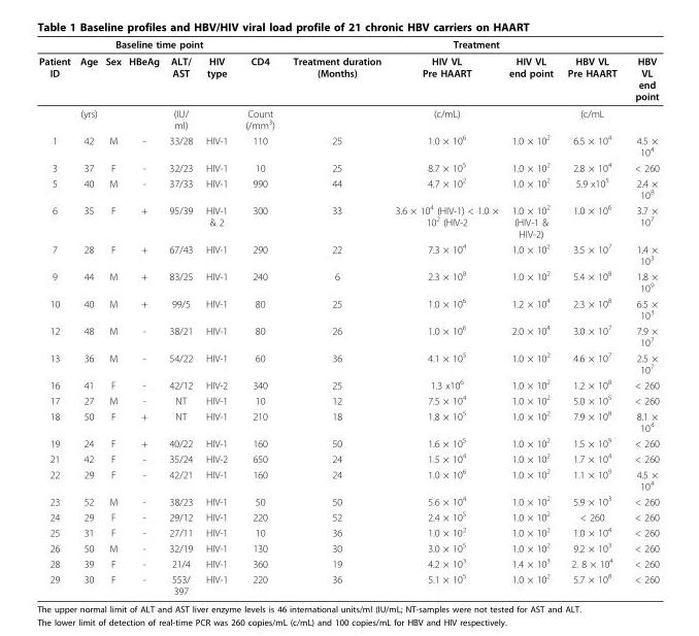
<table><thead><tr><td colspan="7">Baseline time point</td><td colspan="5">Treatment</td></tr><tr><td>Patient ID</td><td>Age</td><td>Sex</td><td>HBeAg</td><td>ALT/ AST</td><td>HIV type</td><td>CD4</td><td>Treatment duration (Months)</td><td>HIV VL Pre HAART</td><td>HIV VL end point</td><td>HBV VL Pre HAART</td><td>HBV VL end point</td></tr></thead><tbody><tr><td></td><td>(yrs)</td><td></td><td></td><td>(IU/ ml)</td><td></td><td>Count (/mm<sup>3</sup>)</td><td></td><td>(c/mL)</td><td></td><td>(c/mL</td><td></td></tr><tr><td>1</td><td>42</td><td>M</td><td>-</td><td>33/28</td><td>HIV-1</td><td>110</td><td>25</td><td>1.0 × 10<sup>6</sup></td><td>1.0 × 10<sup>2</sup></td><td>6.5 × 10<sup>4</sup></td><td>4.5 × 10<sup>4</sup></td></tr><tr><td>3</td><td>37</td><td>F</td><td>-</td><td>32/23</td><td>HIV-1</td><td>10</td><td>25</td><td>8.7 × 10<sup>5</sup></td><td>1.0 × 10<sup>2</sup></td><td>2.8 × 10<sup>4</sup></td><td>&lt; 260</td></tr><tr><td>5</td><td>40</td><td>M</td><td>-</td><td>37/33</td><td>HIV-1</td><td>990</td><td>44</td><td>4.7 × 10<sup>2</sup></td><td>1.0 × 10<sup>2</sup></td><td>5.9 x10<sup>5</sup></td><td>2.4 × 10<sup>8</sup></td></tr><tr><td>6</td><td>35</td><td>F</td><td>+</td><td>95/39</td><td>HIV-1 &amp; 2</td><td>300</td><td>33</td><td>3.6 × 10<sup>4</sup> (HIV-1) &lt; 1.0 × 10<sup>2</sup> (HIV-2</td><td>1.0 × 10<sup>2</sup> (HIV-1 &amp; HIV-2)</td><td>1.0 × 10<sup>6</sup></td><td>3.7 × 10<sup>7</sup></td></tr><tr><td>7</td><td>28</td><td>F</td><td>+</td><td>67/43</td><td>HIV-1</td><td>290</td><td>22</td><td>7.3 × 10<sup>4</sup></td><td>1.0 × 10<sup>2</sup></td><td>3.5 × 10<sup>7</sup></td><td>1.4 × 10<sup>3</sup></td></tr><tr><td>9</td><td>44</td><td>M</td><td>+</td><td>83/25</td><td>HIV-1</td><td>240</td><td>6</td><td>2.3 × 10<sup>8</sup></td><td>1.0 × 10<sup>2</sup></td><td>5.4 × 10<sup>8</sup></td><td>1.8 × 10<sup>9</sup></td></tr><tr><td>10</td><td>40</td><td>M</td><td>+</td><td>99/5</td><td>HIV-1</td><td>80</td><td>25</td><td>1.0 × 10<sup>6</sup></td><td>1.2 × 10<sup>4</sup></td><td>2.3 × 10<sup>8</sup></td><td>6.5 × 10<sup>3</sup></td></tr><tr><td>12</td><td>48</td><td>M</td><td>-</td><td>38/21</td><td>HIV-1</td><td>80</td><td>26</td><td>1.0 × 10<sup>6</sup></td><td>2.0 × 10<sup>4</sup></td><td>3.0 × 10<sup>7</sup></td><td>7.9 × 10<sup>7</sup></td></tr><tr><td>13</td><td>36</td><td>M</td><td>-</td><td>54/22</td><td>HIV-1</td><td>60</td><td>36</td><td>4.1 × 10<sup>5</sup></td><td>1.0 × 10<sup>2</sup></td><td>4.6 × 10<sup>7</sup></td><td>2.5 × 10<sup>7</sup></td></tr><tr><td>16</td><td>41</td><td>F</td><td>-</td><td>42/12</td><td>HIV-2</td><td>340</td><td>25</td><td>1.3 x10<sup>6</sup></td><td>1.0 × 10<sup>2</sup></td><td>1.2 × 10<sup>8</sup></td><td>&lt; 260</td></tr><tr><td>17</td><td>27</td><td>M</td><td>-</td><td>NT</td><td>HIV-1</td><td>10</td><td>12</td><td>7.5 × 10<sup>4</sup></td><td>1.0 × 10<sup>2</sup></td><td>5.0 × 10<sup>5</sup></td><td>&lt; 260</td></tr><tr><td>18</td><td>50</td><td>F</td><td>+</td><td>NT</td><td>HIV-1</td><td>210</td><td>18</td><td>1.8 × 10<sup>5</sup></td><td>1.0 × 10<sup>2</sup></td><td>7.9 × 10<sup>8</sup></td><td>8.1 × 10<sup>4</sup></td></tr><tr><td>19</td><td>24</td><td>F</td><td>+</td><td>40/22</td><td>HIV-1</td><td>160</td><td>50</td><td>1.6 × 10<sup>5</sup></td><td>1.0 × 10<sup>2</sup></td><td>1.5 × 10<sup>9</sup></td><td>&lt; 260</td></tr><tr><td>21</td><td>42</td><td>F</td><td>-</td><td>35/24</td><td>HIV-2</td><td>650</td><td>24</td><td>1.5 × 10<sup>4</sup></td><td>1.0 × 10<sup>2</sup></td><td>1.7 × 10<sup>4</sup></td><td>&lt; 260</td></tr><tr><td>22</td><td>29</td><td>F</td><td>-</td><td>42/21</td><td>HIV-1</td><td>160</td><td>24</td><td>1.0 × 10<sup>6</sup></td><td>1.0 × 10<sup>2</sup></td><td>1.1 × 10<sup>9</sup></td><td>4.5 × 10<sup>4</sup></td></tr><tr><td>23</td><td>52</td><td>M</td><td>-</td><td>38/23</td><td>HIV-1</td><td>50</td><td>50</td><td>5.6 × 10<sup>4</sup></td><td>1.0 × 10<sup>2</sup></td><td>5.9 × 10<sup>3</sup></td><td>&lt; 260</td></tr><tr><td>24</td><td>29</td><td>F</td><td>-</td><td>29/12</td><td>HIV-1</td><td>220</td><td>52</td><td>2.4 × 10<sup>5</sup></td><td>1.0 × 10<sup>2</sup></td><td>&lt; 260</td><td>&lt; 260</td></tr><tr><td>25</td><td>31</td><td>F</td><td>-</td><td>27/11</td><td>HIV-1</td><td>10</td><td>36</td><td>1.0 × 10<sup>2</sup></td><td>1.0 × 10<sup>2</sup></td><td>1.0 × 10<sup>4</sup></td><td>&lt; 260</td></tr><tr><td>26</td><td>50</td><td>M</td><td>-</td><td>32/19</td><td>HIV-1</td><td>130</td><td>30</td><td>3.0 × 10<sup>5</sup></td><td>1.0 × 10<sup>2</sup></td><td>9.2 × 10<sup>3</sup></td><td>&lt; 260</td></tr><tr><td>28</td><td>39</td><td>F</td><td>-</td><td>21/4</td><td>HIV-1</td><td>360</td><td>19</td><td>4.2 × 10<sup>3</sup></td><td>1.4 × 10<sup>3</sup></td><td>2. 8 × 10<sup>4</sup></td><td>&lt; 260</td></tr><tr><td>29</td><td>30</td><td>F</td><td>-</td><td>553/ 397</td><td>HIV-1</td><td>220</td><td>36</td><td>5.1 × 10<sup>5</sup></td><td>1.0 × 10<sup>2</sup></td><td>5.7 × 10<sup>8</sup></td><td>&lt; 260</td></tr></tbody></table>